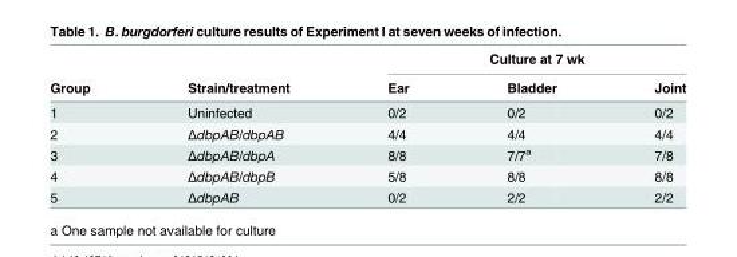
<table><thead><tr><td rowspan="2">Group</td><td rowspan="2">Strain/treatment</td><td colspan="3">Culture at 7 wk</td></tr><tr><td>Ear</td><td>Bladder</td><td>Joint</td></tr></thead><tbody><tr><td>1</td><td>Uninfected</td><td>0/2</td><td>0/2</td><td>0/2</td></tr><tr><td>2</td><td>ΔdbpAB/dbpAB</td><td>4/4</td><td>4/4</td><td>4/4</td></tr><tr><td>3</td><td>ΔdbpAB/dbpA</td><td>8/8</td><td>7/7<sup>a</sup></td><td>7/8</td></tr><tr><td>4</td><td>ΔdbpAB/dbpB</td><td>5/8</td><td>8/8</td><td>8/8</td></tr><tr><td>5</td><td>ΔdbpAB</td><td>0/2</td><td>2/2</td><td>2/2</td></tr></tbody></table>